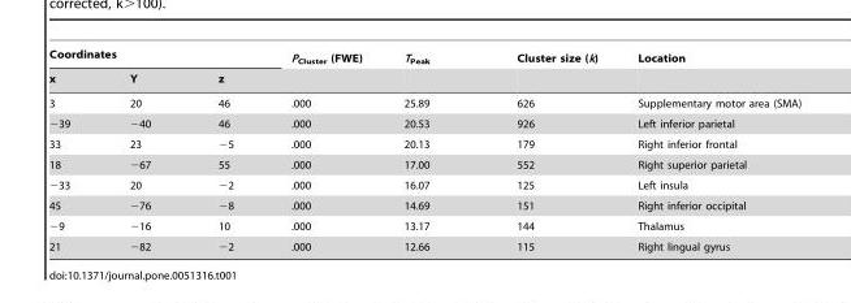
<table><thead><tr><td colspan="3">Coordinates</td><td rowspan="2">P<sub>Cluster</sub> (FWE)</td><td rowspan="2">T<sub>Peak</sub></td><td rowspan="2">Cluster size (k)</td><td rowspan="2">Location</td></tr><tr><td>x</td><td>Y</td><td>z</td></tr></thead><tbody><tr><td>3</td><td>20</td><td>46</td><td>.000</td><td>25.89</td><td>626</td><td>Supplementary motor area (SMA)</td></tr><tr><td>−39</td><td>−40</td><td>46</td><td>.000</td><td>20.53</td><td>926</td><td>Left inferior parietal</td></tr><tr><td>33</td><td>23</td><td>−5</td><td>.000</td><td>20.13</td><td>179</td><td>Right inferior frontal</td></tr><tr><td>18</td><td>−67</td><td>55</td><td>.000</td><td>17.00</td><td>552</td><td>Right superior parietal</td></tr><tr><td>−33</td><td>20</td><td>−2</td><td>.000</td><td>16.07</td><td>125</td><td>Left insula</td></tr><tr><td>45</td><td>−76</td><td>−8</td><td>.000</td><td>14.69</td><td>151</td><td>Right inferior occipital</td></tr><tr><td>−9</td><td>−16</td><td>10</td><td>.000</td><td>13.17</td><td>144</td><td>Thalamus</td></tr><tr><td>21</td><td>−82</td><td>−2</td><td>.000</td><td>12.66</td><td>115</td><td>Right lingual gyrus</td></tr></tbody></table>